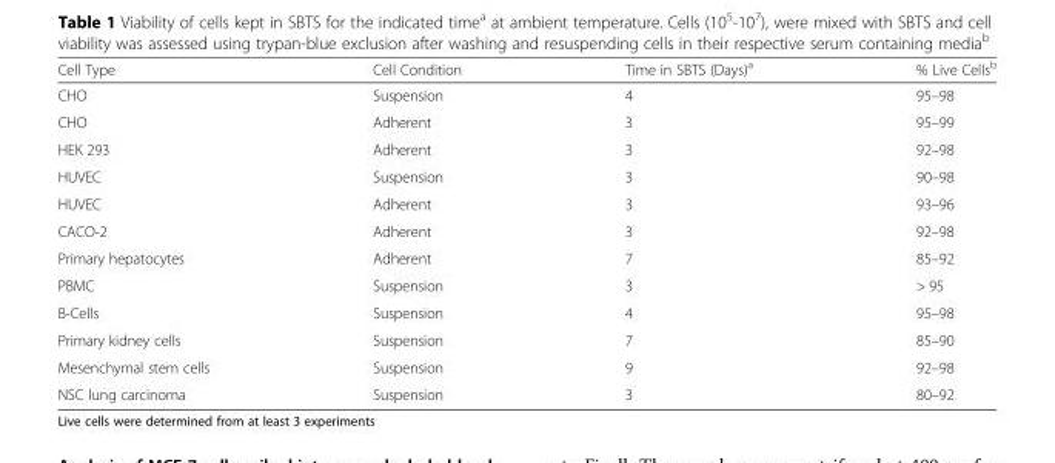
<table><thead><tr><td>Cell Type</td><td>Cell Condition</td><td>Time in SBTS (Days)<sup>a</sup></td><td>% Live Cells<sup>b</sup></td></tr></thead><tbody><tr><td>CHO</td><td>Suspension</td><td>4</td><td>95–98</td></tr><tr><td>CHO</td><td>Adherent</td><td>3</td><td>95–99</td></tr><tr><td>HEK 293</td><td>Adherent</td><td>3</td><td>92–98</td></tr><tr><td>HUVEC</td><td>Suspension</td><td>3</td><td>90–98</td></tr><tr><td>HUVEC</td><td>Adherent</td><td>3</td><td>93–96</td></tr><tr><td>CACO-2</td><td>Adherent</td><td>3</td><td>92–98</td></tr><tr><td>Primary hepatocytes</td><td>Adherent</td><td>7</td><td>85–92</td></tr><tr><td>PBMC</td><td>Suspension</td><td>3</td><td>&gt; 95</td></tr><tr><td>B-Cells</td><td>Suspension</td><td>4</td><td>95–98</td></tr><tr><td>Primary kidney cells</td><td>Suspension</td><td>7</td><td>85–90</td></tr><tr><td>Mesenchymal stem cells</td><td>Suspension</td><td>9</td><td>92–98</td></tr><tr><td>NSC lung carcinoma</td><td>Suspension</td><td>3</td><td>80–92</td></tr></tbody></table>